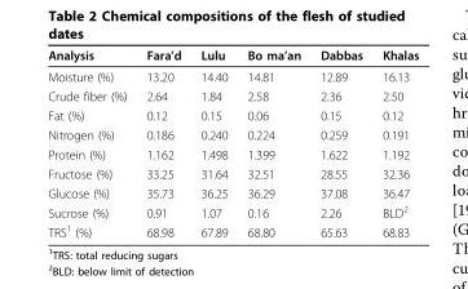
<table><thead><tr><td>Analysis</td><td>Fara’d</td><td>Lulu</td><td>Bo ma’an</td><td>Dabbas</td><td>Khalas</td></tr></thead><tbody><tr><td>Moisture (%)</td><td>13.20</td><td>14.40</td><td>14.81</td><td>12.89</td><td>16.13</td></tr><tr><td>Crude fiber (%)</td><td>2.64</td><td>1.84</td><td>2.58</td><td>2.36</td><td>2.50</td></tr><tr><td>Fat (%)</td><td>0.12</td><td>0.15</td><td>0.06</td><td>0.15</td><td>0.12</td></tr><tr><td>Nitrogen (%)</td><td>0.186</td><td>0.240</td><td>0.224</td><td>0.259</td><td>0.191</td></tr><tr><td>Protein (%)</td><td>1.162</td><td>1.498</td><td>1.399</td><td>1.622</td><td>1.192</td></tr><tr><td>Fructose (%)</td><td>33.25</td><td>31.64</td><td>32.51</td><td>28.55</td><td>32.36</td></tr><tr><td>Glucose (%)</td><td>35.73</td><td>36.25</td><td>36.29</td><td>37.08</td><td>36.47</td></tr><tr><td>Sucrose (%)</td><td>0.91</td><td>1.07</td><td>0.16</td><td>2.26</td><td>BLD<sup>2</sup></td></tr><tr><td>TRS<sup>1</sup> (%)</td><td>68.98</td><td>67.89</td><td>68.80</td><td>65.63</td><td>68.83</td></tr></tbody></table>